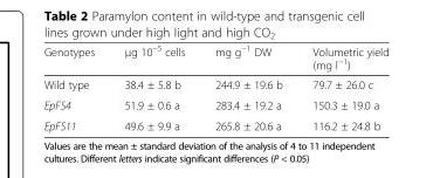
<table><thead><tr><td>Genotypes</td><td>μg 10<sup>−5</sup> cells</td><td>mg g<sup>−1</sup> DW</td><td>Volumetric yield (mg l<sup>−1</sup>)</td></tr></thead><tbody><tr><td>Wild type</td><td>38.4 ± 5.8 b</td><td>244.9 ± 19.6 b</td><td>79.7 ± 26.0 c</td></tr><tr><td>EpFS4</td><td>51.9 ± 0.6 a</td><td>283.4 ± 19.2 a</td><td>150.3 ± 19.0 a</td></tr><tr><td>EpFS11</td><td>49.6 ± 9.9 a</td><td>265.8 ± 20.6 a</td><td>116.2 ± 24.8 b</td></tr></tbody></table>